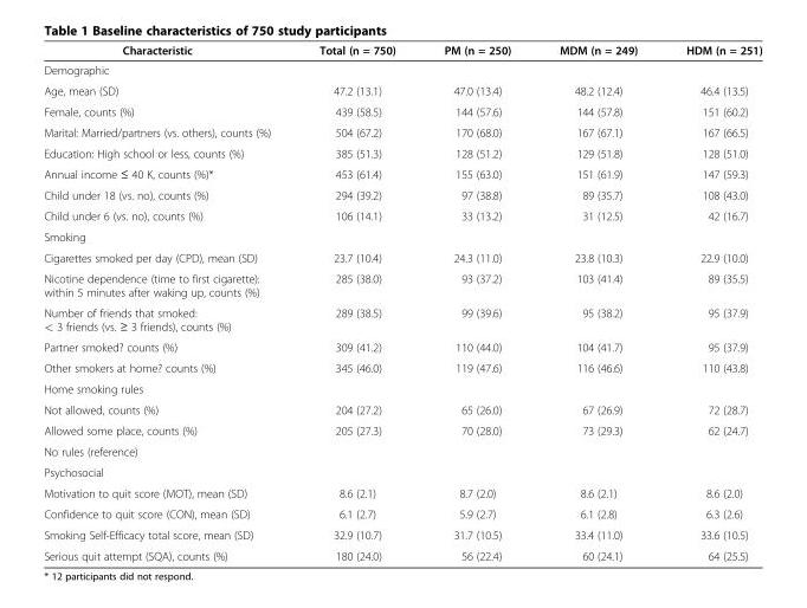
<table><thead><tr><td>Characteristic</td><td>Total (n = 750)</td><td>PM (n = 250)</td><td>MDM (n = 249)</td><td>HDM (n = 251)</td></tr></thead><tbody><tr><td colspan="5">Demographic</td></tr><tr><td>Age, mean (SD)</td><td>47.2 (13.1)</td><td>47.0 (13.4)</td><td>48.2 (12.4)</td><td>46.4 (13.5)</td></tr><tr><td>Female, counts (%)</td><td>439 (58.5)</td><td>144 (57.6)</td><td>144 (57.8)</td><td>151 (60.2)</td></tr><tr><td>Marital: Married/partners (vs. others), counts (%)</td><td>504 (67.2)</td><td>170 (68.0)</td><td>167 (67.1)</td><td>167 (66.5)</td></tr><tr><td>Education: High school or less, counts (%)</td><td>385 (51.3)</td><td>128 (51.2)</td><td>129 (51.8)</td><td>128 (51.0)</td></tr><tr><td>Annual income ≤ 40 K, counts (%)*</td><td>453 (61.4)</td><td>155 (63.0)</td><td>151 (61.9)</td><td>147 (59.3)</td></tr><tr><td>Child under 18 (vs. no), counts (%)</td><td>294 (39.2)</td><td>97 (38.8)</td><td>89 (35.7)</td><td>108 (43.0)</td></tr><tr><td>Child under 6 (vs. no), counts (%)</td><td>106 (14.1)</td><td>33 (13.2)</td><td>31 (12.5)</td><td>42 (16.7)</td></tr><tr><td colspan="5">Smoking</td></tr><tr><td>Cigarettes smoked per day (CPD), mean (SD)</td><td>23.7 (10.4)</td><td>24.3 (11.0)</td><td>23.8 (10.3)</td><td>22.9 (10.0)</td></tr><tr><td>Nicotine dependence (time to first cigarette): within 5 minutes after waking up, counts (%)</td><td>285 (38.0)</td><td>93 (37.2)</td><td>103 (41.4)</td><td>89 (35.5)</td></tr><tr><td>Number of friends that smoked: &lt; 3 friends (vs. ≥ 3 friends), counts (%)</td><td>289 (38.5)</td><td>99 (39.6)</td><td>95 (38.2)</td><td>95 (37.9)</td></tr><tr><td>Partner smoked? counts (%)</td><td>309 (41.2)</td><td>110 (44.0)</td><td>104 (41.7)</td><td>95 (37.9)</td></tr><tr><td>Other smokers at home? counts (%)</td><td>345 (46.0)</td><td>119 (47.6)</td><td>116 (46.6)</td><td>110 (43.8)</td></tr><tr><td colspan="5">Home smoking rules</td></tr><tr><td>Not allowed, counts (%)</td><td>204 (27.2)</td><td>65 (26.0)</td><td>67 (26.9)</td><td>72 (28.7)</td></tr><tr><td>Allowed some place, counts (%)</td><td>205 (27.3)</td><td>70 (28.0)</td><td>73 (29.3)</td><td>62 (24.7)</td></tr><tr><td colspan="5">No rules (reference)</td></tr><tr><td colspan="5">Psychosocial</td></tr><tr><td>Motivation to quit score (MOT), mean (SD)</td><td>8.6 (2.1)</td><td>8.7 (2.0)</td><td>8.6 (2.1)</td><td>8.6 (2.0)</td></tr><tr><td>Confidence to quit score (CON), mean (SD)</td><td>6.1 (2.7)</td><td>5.9 (2.7)</td><td>6.1 (2.8)</td><td>6.3 (2.6)</td></tr><tr><td>Smoking Self-Efficacy total score, mean (SD)</td><td>32.9 (10.7)</td><td>31.7 (10.5)</td><td>33.4 (11.0)</td><td>33.6 (10.5)</td></tr><tr><td>Serious quit attempt (SQA), counts (%)</td><td>180 (24.0)</td><td>56 (22.4)</td><td>60 (24.1)</td><td>64 (25.5)</td></tr></tbody></table>